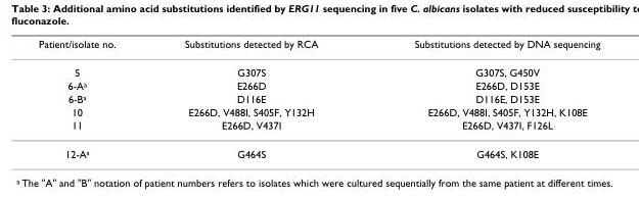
<table><thead><tr><td>Patient/isolate no.</td><td>Substitutions detected by RCA</td><td>Substitutions detected by DNA sequencing</td></tr></thead><tbody><tr><td>5</td><td>G307S</td><td>G307S, G450V</td></tr><tr><td>6-A<sup>a</sup></td><td>E266D</td><td>E266D, D153E</td></tr><tr><td>6-B<sup>a</sup></td><td>D116E</td><td>D116E, D153E</td></tr><tr><td>10</td><td>E266D, V488I, S405F, Y132H</td><td>E266D, V488I, S405F, Y132H, K108E</td></tr><tr><td>11</td><td>E266D, V437I</td><td>E266D, V437I, F126L</td></tr><tr><td>12-A<sup>a</sup></td><td>G464S</td><td>G464S, K108E</td></tr></tbody></table>